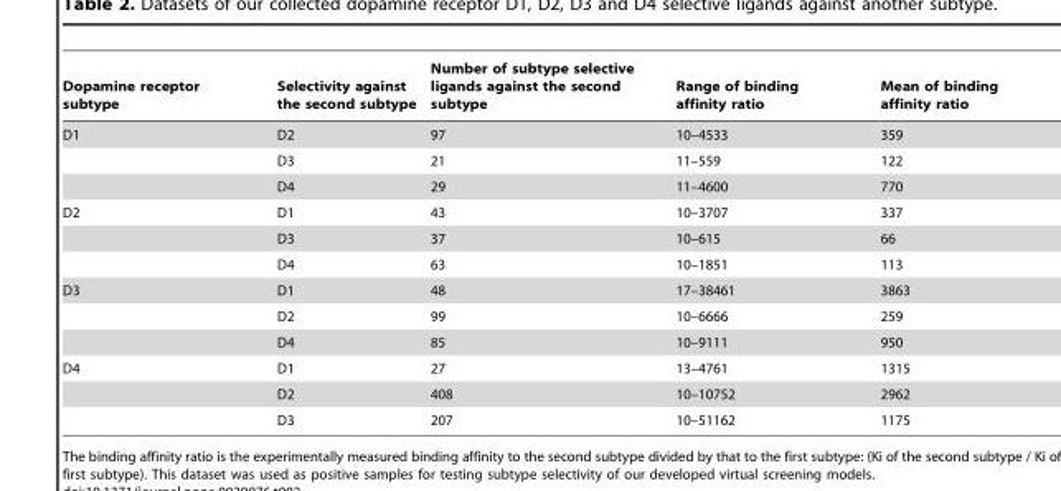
<table><thead><tr><td>Dopamine receptor subtype</td><td>Selectivity against the second subtype</td><td>Number of subtype selective ligands against the second subtype</td><td>Range of binding affinity ratio</td><td>Mean of binding affinity ratio</td></tr></thead><tbody><tr><td rowspan="3">D1</td><td>D2</td><td>97</td><td>10–4533</td><td>359</td></tr><tr><td>D3</td><td>21</td><td>11–559</td><td>122</td></tr><tr><td>D4</td><td>29</td><td>11–4600</td><td>770</td></tr><tr><td rowspan="3">D2</td><td>D1</td><td>43</td><td>10–3707</td><td>337</td></tr><tr><td>D3</td><td>37</td><td>10–615</td><td>66</td></tr><tr><td>D4</td><td>63</td><td>10–1851</td><td>113</td></tr><tr><td rowspan="3">D3</td><td>D1</td><td>48</td><td>17–38461</td><td>3863</td></tr><tr><td>D2</td><td>99</td><td>10–6666</td><td>259</td></tr><tr><td>D4</td><td>85</td><td>10–9111</td><td>950</td></tr><tr><td rowspan="3">D4</td><td>D1</td><td>27</td><td>13–4761</td><td>1315</td></tr><tr><td>D2</td><td>408</td><td>10–10752</td><td>2962</td></tr><tr><td>D3</td><td>207</td><td>10–51162</td><td>1175</td></tr></tbody></table>